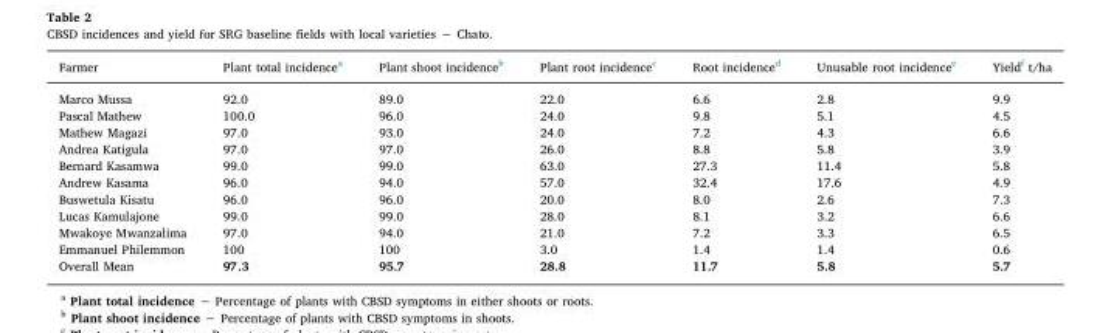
<table><thead><tr><td>Farmer</td><td>Plant total incidence<sup>a</sup></td><td>Plant shoot incidence<sup>b</sup></td><td>Plant root incidence<sup>c</sup></td><td>Root incidence<sup>d</sup></td><td>Unusable root incidence<sup>e</sup></td><td>Yield<sup>f</sup> t/ha</td></tr></thead><tbody><tr><td>Marco Mussa</td><td>92.0</td><td>89.0</td><td>22.0</td><td>6.6</td><td>2.8</td><td>9.9</td></tr><tr><td>Pascal Mathew</td><td>100.0</td><td>96.0</td><td>24.0</td><td>9.8</td><td>5.1</td><td>4.5</td></tr><tr><td>Mathew Magazi</td><td>97.0</td><td>93.0</td><td>24.0</td><td>7.2</td><td>4.3</td><td>6.6</td></tr><tr><td>Andrea Katigula</td><td>97.0</td><td>97.0</td><td>26.0</td><td>8.8</td><td>5.8</td><td>3.9</td></tr><tr><td>Bernard Kasamwa</td><td>99.0</td><td>99.0</td><td>63.0</td><td>27.3</td><td>11.4</td><td>5.8</td></tr><tr><td>Andrew Kasama</td><td>96.0</td><td>94.0</td><td>57.0</td><td>32.4</td><td>17.6</td><td>4.9</td></tr><tr><td>Buswetula Kisatu</td><td>96.0</td><td>96.0</td><td>20.0</td><td>8.0</td><td>2.6</td><td>7.3</td></tr><tr><td>Lucas Kamulajone</td><td>99.0</td><td>99.0</td><td>28.0</td><td>8.1</td><td>3.2</td><td>6.6</td></tr><tr><td>Mwakoye Mwanzalima</td><td>97.0</td><td>94.0</td><td>21.0</td><td>7.2</td><td>3.3</td><td>6.5</td></tr><tr><td>Emmanuel Philemmon</td><td>100</td><td>100</td><td>3.0</td><td>1.4</td><td>1.4</td><td>0.6</td></tr><tr><td>Overall Mean</td><td>97.3</td><td>95.7</td><td>28.8</td><td>11.7</td><td>5.8</td><td>5.7</td></tr></tbody></table>